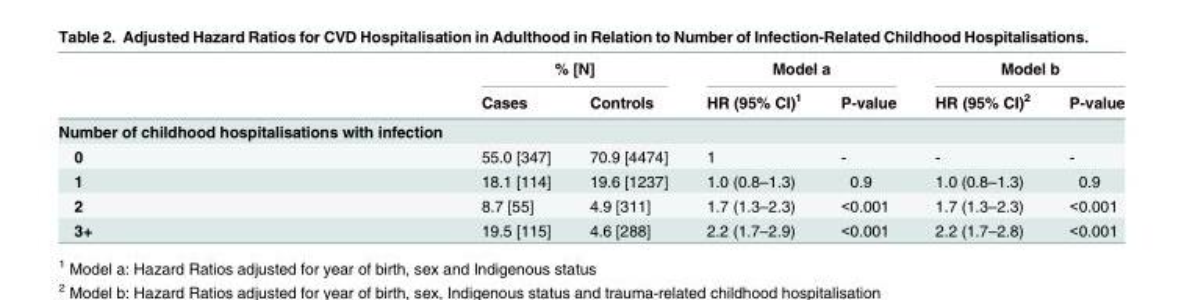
<table><thead><tr><td rowspan="2"></td><td colspan="2">% [N]</td><td colspan="2">Model a</td><td colspan="2">Model b</td></tr><tr><td>Cases</td><td>Controls</td><td>HR (95% CI)<sup>1</sup></td><td>P-value</td><td>HR (95% CI)<sup>2</sup></td><td>P-value</td></tr></thead><tbody><tr><td colspan="7">Number of childhood hospitalisations with infection</td></tr><tr><td>0</td><td>55.0 [347]</td><td>70.9 [4474]</td><td>1</td><td>-</td><td>-</td><td>-</td></tr><tr><td>1</td><td>18.1 [114]</td><td>19.6 [1237]</td><td>1.0 (0.8–1.3)</td><td>0.9</td><td>1.0 (0.8–1.3)</td><td>0.9</td></tr><tr><td>2</td><td>8.7 [55]</td><td>4.9 [311]</td><td>1.7 (1.3–2.3)</td><td>&lt;0.001</td><td>1.7 (1.3–2.3)</td><td>&lt;0.001</td></tr><tr><td>3+</td><td>19.5 [115]</td><td>4.6 [288]</td><td>2.2 (1.7–2.9)</td><td>&lt;0.001</td><td>2.2 (1.7–2.8)</td><td>&lt;0.001</td></tr></tbody></table>